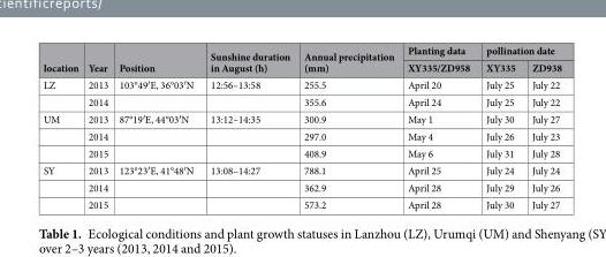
<table><thead><tr><td rowspan="2">location</td><td rowspan="2">Year</td><td rowspan="2">Position</td><td rowspan="2">Sunshine duration in August (h)</td><td rowspan="2">Annual precipitation (mm)</td><td rowspan="2">Planting data XY335/ZD958</td><td colspan="2">pollination date</td></tr><tr><td>XY335</td><td>ZD938</td></tr></thead><tbody><tr><td rowspan="2">LZ</td><td>2013</td><td>103°49′E, 36°03′N</td><td>12:56–13:58</td><td>255.5</td><td>April 20</td><td>July 25</td><td>July 22</td></tr><tr><td>2014</td><td></td><td></td><td>355.6</td><td>April 24</td><td>July 25</td><td>July 22</td></tr><tr><td rowspan="3">UM</td><td>2013</td><td>87°19′E, 44°03′N</td><td>13:12–14:35</td><td>300.9</td><td>May 1</td><td>July 30</td><td>July 27</td></tr><tr><td>2014</td><td></td><td></td><td>297.0</td><td>May 4</td><td>July 26</td><td>July 23</td></tr><tr><td>2015</td><td></td><td></td><td>408.9</td><td>May 6</td><td>July 31</td><td>July 28</td></tr><tr><td rowspan="3">SY</td><td>2013</td><td>123°23′E, 41°48′N</td><td>13:08–14:27</td><td>788.1</td><td>April 25</td><td>July 24</td><td>July 24</td></tr><tr><td>2014</td><td></td><td></td><td>362.9</td><td>April 28</td><td>July 29</td><td>July 26</td></tr><tr><td>2015</td><td></td><td></td><td>573.2</td><td>April 28</td><td>July 30</td><td>July 27</td></tr></tbody></table>